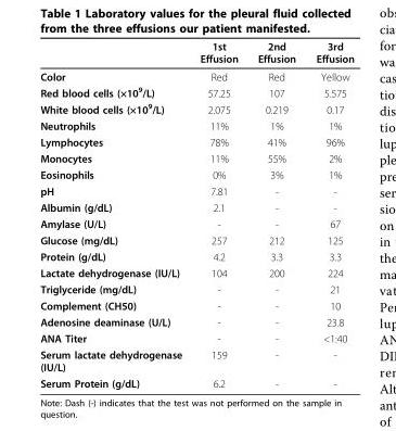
<table><thead><tr><td></td><td>1st Effusion</td><td>2nd Effusion</td><td>3rd Effusion</td></tr></thead><tbody><tr><td>Color</td><td>Red</td><td>Red</td><td>Yellow</td></tr><tr><td>Red blood cells (×10<sup>9</sup>/L)</td><td>57.25</td><td>107</td><td>5.575</td></tr><tr><td>White blood cells (×10<sup>9</sup>/L)</td><td>2.075</td><td>0.219</td><td>0.17</td></tr><tr><td>Neutrophils</td><td>11%</td><td>1%</td><td>1%</td></tr><tr><td>Lymphocytes</td><td>78%</td><td>41%</td><td>96%</td></tr><tr><td>Monocytes</td><td>11%</td><td>55%</td><td>2%</td></tr><tr><td>Eosinophils</td><td>0%</td><td>3%</td><td>1%</td></tr><tr><td>pH</td><td>7.81</td><td>-</td><td>-</td></tr><tr><td>Albumin (g/dL)</td><td>2.1</td><td>-</td><td>-</td></tr><tr><td>Amylase (U/L)</td><td>-</td><td>-</td><td>67</td></tr><tr><td>Glucose (mg/dL)</td><td>257</td><td>212</td><td>125</td></tr><tr><td>Protein (g/dL)</td><td>4.2</td><td>3.3</td><td>3.3</td></tr><tr><td>Lactate dehydrogenase (IU/L)</td><td>104</td><td>200</td><td>224</td></tr><tr><td>Triglyceride (mg/dL)</td><td>-</td><td>-</td><td>21</td></tr><tr><td>Complement (CH50)</td><td>-</td><td>-</td><td>10</td></tr><tr><td>Adenosine deaminase (U/L)</td><td>-</td><td>-</td><td>23.8</td></tr><tr><td>ANA Titer</td><td>-</td><td>-</td><td>&lt;1:40</td></tr><tr><td>Serum lactate dehydrogenase (IU/L)</td><td>159</td><td>-</td><td>-</td></tr><tr><td>Serum Protein (g/dL)</td><td>6.2</td><td>-</td><td>-</td></tr></tbody></table>